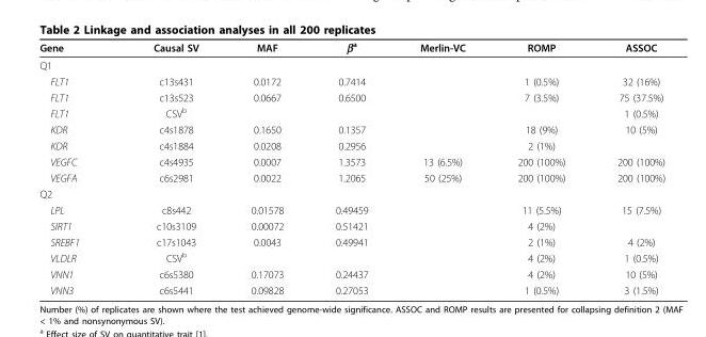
<table><thead><tr><td>Gene</td><td>Causal SV</td><td>MAF</td><td>β<sup>a</sup></td><td>Merlin-VC</td><td>ROMP</td><td>ASSOC</td></tr></thead><tbody><tr><td colspan="7">Q1</td></tr><tr><td>FLT1</td><td>c13s431</td><td>0.0172</td><td>0.7414</td><td></td><td>1 (0.5%)</td><td>32 (16%)</td></tr><tr><td>FLT1</td><td>c13s523</td><td>0.0667</td><td>0.6500</td><td></td><td>7 (3.5%)</td><td>75 (37.5%)</td></tr><tr><td>FLT1</td><td>CSV<sup>b</sup></td><td></td><td></td><td></td><td></td><td>1 (0.5%)</td></tr><tr><td>KDR</td><td>c4s1878</td><td>0.1650</td><td>0.1357</td><td></td><td>18 (9%)</td><td>10 (5%)</td></tr><tr><td>KDR</td><td>c4s1884</td><td>0.0208</td><td>0.2956</td><td></td><td>2 (1%)</td><td></td></tr><tr><td>VEGFC</td><td>c4s4935</td><td>0.0007</td><td>1.3573</td><td>13 (6.5%)</td><td>200 (100%)</td><td>200 (100%)</td></tr><tr><td>VEGFA</td><td>c6s2981</td><td>0.0022</td><td>1.2065</td><td>50 (25%)</td><td>200 (100%)</td><td>200 (100%)</td></tr><tr><td colspan="7">Q2</td></tr><tr><td>LPL</td><td>c8s442</td><td>0.01578</td><td>0.49459</td><td></td><td>11 (5.5%)</td><td>15 (7.5%)</td></tr><tr><td>SIRT1</td><td>c10s3109</td><td>0.00072</td><td>0.51421</td><td></td><td>4 (2%)</td><td></td></tr><tr><td>SREBF1</td><td>c17s1043</td><td>0.0043</td><td>0.49941</td><td></td><td>2 (1%)</td><td>4 (2%)</td></tr><tr><td>VLDLR</td><td>CSV<sup>b</sup></td><td></td><td></td><td></td><td>4 (2%)</td><td>1 (0.5%)</td></tr><tr><td>VNN1</td><td>c6s5380</td><td>0.17073</td><td>0.24437</td><td></td><td>4 (2%)</td><td>10 (5%)</td></tr><tr><td>VNN3</td><td>c6s5441</td><td>0.09828</td><td>0.27053</td><td></td><td>1 (0.5%)</td><td>3 (1.5%)</td></tr></tbody></table>